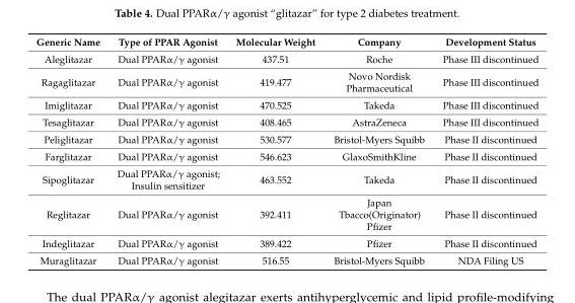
<table><thead><tr><td>Generic Name</td><td>Type of PPAR Agonist</td><td>Molecular Weight</td><td>Company</td><td>Development Status</td></tr></thead><tbody><tr><td>Aleglitazar</td><td>Dual PPARα/γ agonist</td><td>437.51</td><td>Roche</td><td>Phase III discontinued</td></tr><tr><td>Ragaglitazar</td><td>Dual PPARα/γ agonist</td><td>419.477</td><td>Novo Nordisk Pharmaceutical</td><td>Phase III discontinued</td></tr><tr><td>Imiglitazar</td><td>Dual PPARα/γ agonist</td><td>470.525</td><td>Takeda</td><td>Phase III discontinued</td></tr><tr><td>Tesaglitazar</td><td>Dual PPARα/γ agonist</td><td>408.465</td><td>AstraZeneca</td><td>Phase III discontinued</td></tr><tr><td>Peliglitazar</td><td>Dual PPARα/γ agonist</td><td>530.577</td><td>Bristol-Myers Squibb</td><td>Phase II discontinued</td></tr><tr><td>Farglitazar</td><td>Dual PPARα/γ agonist</td><td>546.623</td><td>GlaxoSmithKline</td><td>Phase II discontinued</td></tr><tr><td>Sipoglitazar</td><td>Dual PPARα/γ agonist; Insulin sensitizer</td><td>463.552</td><td>Takeda</td><td>Phase II discontinued</td></tr><tr><td>Reglitazar</td><td>Dual PPARα/γ agonist</td><td>392.411</td><td>Japan Tbacco(Originator) Pfizer</td><td>Phase II discontinued</td></tr><tr><td>Indeglitazar</td><td>Dual PPARα/γ agonist</td><td>389.422</td><td>Pfizer</td><td>Phase II discontinued</td></tr><tr><td>Muraglitazar</td><td>Dual PPARα/γ agonist</td><td>516.55</td><td>Bristol-Myers Squibb</td><td>NDA Filing US</td></tr></tbody></table>